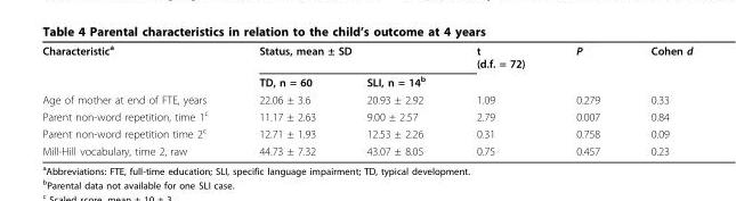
<table><tbody><tr><td rowspan="2">Characteristic<sup>a</sup></td><td colspan="2">Status, mean ± SD</td><td>t (d.f. = 72)</td><td>P</td><td>Cohen d</td></tr><tr><td>TD, n = 60</td><td>SLI, n = 14<sup>b</sup></td><td></td><td></td><td></td></tr><tr><td>Age of mother at end of FTE, years</td><td>22.06 ± 3.6</td><td>20.93 ± 2.92</td><td>1.09</td><td>0.279</td><td>0.33</td></tr><tr><td>Parent non-word repetition, time 1<sup>c</sup></td><td>11.17 ± 2.63</td><td>9.00 ± 2.57</td><td>2.79</td><td>0.007</td><td>0.84</td></tr><tr><td>Parent non-word repetition time 2<sup>c</sup></td><td>12.71 ± 1.93</td><td>12.53 ± 2.26</td><td>0.31</td><td>0.758</td><td>0.09</td></tr><tr><td>Mill-Hill vocabulary, time 2, raw</td><td>44.73 ± 7.32</td><td>43.07 ± 8.05</td><td>0.75</td><td>0.457</td><td>0.23</td></tr></tbody></table>